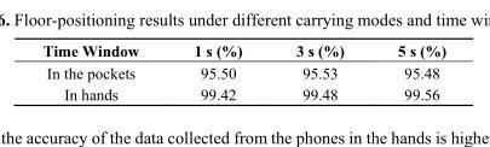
<table><thead><tr><td>Time Window</td><td>1 s (%)</td><td>3 s (%)</td><td>5 s (%)</td></tr></thead><tbody><tr><td>In the pockets</td><td>95.50</td><td>95.53</td><td>95.48</td></tr><tr><td>In hands</td><td>99.42</td><td>99.48</td><td>99.56</td></tr></tbody></table>